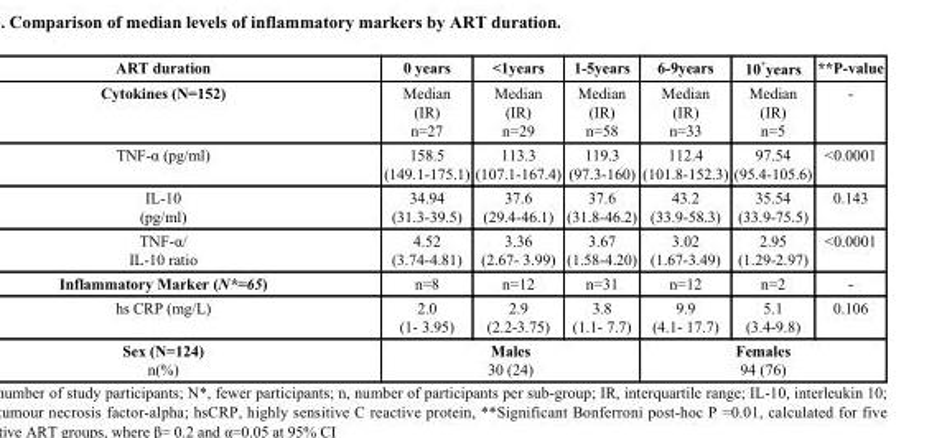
<table><thead><tr><td>ART duration</td><td>0 years</td><td>&lt;1years</td><td>1-5years</td><td>6-9years</td><td>10 <sup>+</sup>years</td><td>**P-value</td></tr></thead><tbody><tr><td>Cytokines (N=152)</td><td>Median (IR) n=27</td><td>Median (IR) n=29</td><td>Median (IR) n=58</td><td>Median (IR) n=33</td><td>Median (IR) n=5</td><td>-</td></tr><tr><td>TNF-α (pg/ml)</td><td>158.5 (149.1-175.1)</td><td>113.3 (107.1-167.4)</td><td>119.3 (97.3-160)</td><td>112.4 (101.8-152.3)</td><td>97.54 (95.4-105.6)</td><td>&lt;0.0001</td></tr><tr><td>IL-10 (pg/ml)</td><td>34.94 (31.3-39.5)</td><td>37.6 (29.4-46.1)</td><td>37.6 (31.8-46.2)</td><td>43.2 (33.9-58.3)</td><td>35.54 (33.9-75.5)</td><td>0.143</td></tr><tr><td>TNF-α/ IL-10 ratio</td><td>4.52 (3.74-4.81)</td><td>3.36 (2.67- 3.99)</td><td>3.67 (1.58-4.20)</td><td>3.02 (1.67-3.49)</td><td>2.95 (1.29-2.97)</td><td>&lt;0.0001</td></tr><tr><td>Inflammatory Marker (N*=65)</td><td>n=8</td><td>n=12</td><td>n=31</td><td>n=12</td><td>n=2</td><td>-</td></tr><tr><td>hs CRP (mg/L)</td><td>2.0 (1- 3.95)</td><td>2.9 (2.2-3.75)</td><td>3.8 (1.1- 7.7)</td><td>9.9 (4.1- 17.7)</td><td>5.1 (3.4-9.8)</td><td>0.106</td></tr><tr><td>Sex (N=124) n(%)</td><td colspan="3">Males 30 (24)</td><td colspan="3">Females 94 (76)</td></tr></tbody></table>